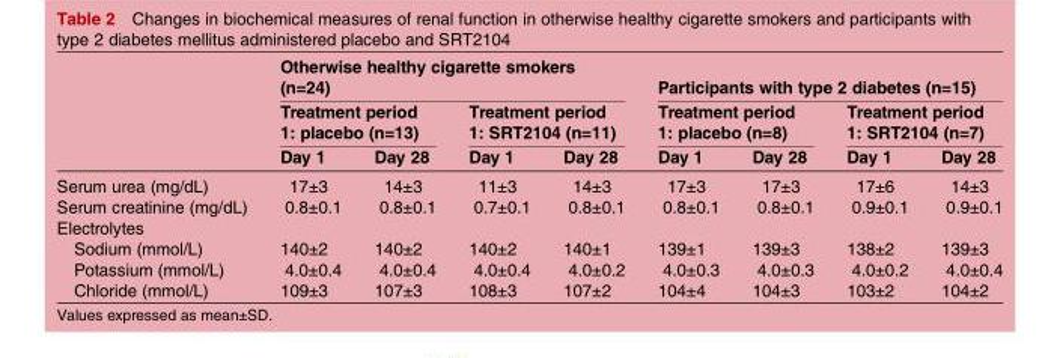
<table><thead><tr><td rowspan="3"></td><td colspan="4">Otherwise healthy cigarette smokers (n=24)</td><td colspan="4">Participants with type 2 diabetes (n=15)</td></tr><tr><td colspan="2">Treatment period 1: placebo (n=13)</td><td colspan="2">Treatment period 1: SRT2104 (n=11)</td><td colspan="2">Treatment period 1: placebo (n=8)</td><td colspan="2">Treatment period 1: SRT2104 (n=7)</td></tr><tr><td>Day 1</td><td>Day 28</td><td>Day 1</td><td>Day 28</td><td>Day 1</td><td>Day 28</td><td>Day 1</td><td>Day 28</td></tr></thead><tbody><tr><td>Serum urea (mg/dL)</td><td>17±3</td><td>14±3</td><td>11±3</td><td>14±3</td><td>17±3</td><td>17±3</td><td>17±6</td><td>14±3</td></tr><tr><td>Serum creatinine (mg/dL)</td><td>0.8±0.1</td><td>0.8±0.1</td><td>0.7±0.1</td><td>0.8±0.1</td><td>0.8±0.1</td><td>0.8±0.1</td><td>0.9±0.1</td><td>0.9±0.1</td></tr><tr><td colspan="9">Electrolytes</td></tr><tr><td>Sodium (mmol/L)</td><td>140±2</td><td>140±2</td><td>140±2</td><td>140±1</td><td>139±1</td><td>139±3</td><td>138±2</td><td>139±3</td></tr><tr><td>Potassium (mmol/L)</td><td>4.0±0.4</td><td>4.0±0.4</td><td>4.0±0.4</td><td>4.0±0.2</td><td>4.0±0.3</td><td>4.0±0.3</td><td>4.0±0.2</td><td>4.0±0.4</td></tr><tr><td>Chloride (mmol/L)</td><td>109±3</td><td>107±3</td><td>108±3</td><td>107±2</td><td>104±4</td><td>104±3</td><td>103±2</td><td>104±2</td></tr></tbody></table>